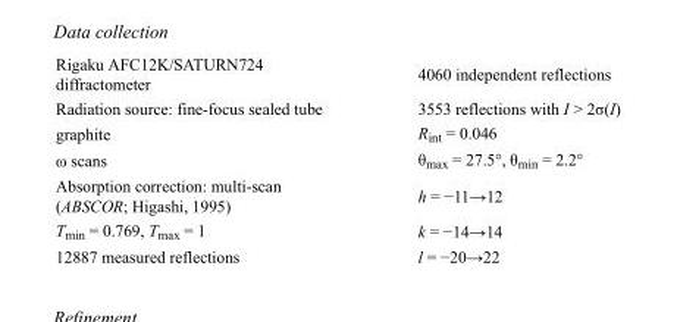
<table><tbody><tr><td>Rigaku AFC12K/SATURN724 diffractometer</td><td>4060 independent reflections</td></tr><tr><td>Radiation source: fine-focus sealed tube</td><td>3553 reflections with I &gt; 2σ(I)</td></tr><tr><td>graphite</td><td>R<sub>int</sub> = 0.046</td></tr><tr><td>ω scans</td><td>θ<sub>max</sub> = 27.5°, θ<sub>min</sub> = 2.2°</td></tr><tr><td>Absorption correction: multi-scan (ABSCOR; Higashi, 1995)</td><td>h = −11→12</td></tr><tr><td>T<sub>min</sub> = 0.769, T<sub>max</sub> = 1</td><td>k = −14→14</td></tr><tr><td>12887 measured reflections</td><td>l = −20→22</td></tr></tbody></table>